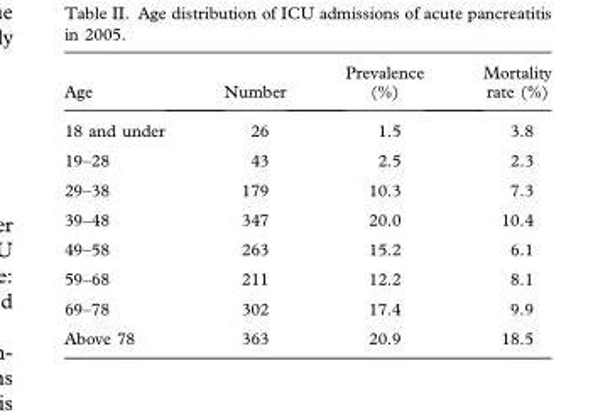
<table><thead><tr><td>Age</td><td>Number</td><td>Prevalence (%)</td><td>Mortality rate (%)</td></tr></thead><tbody><tr><td>18 and under</td><td>26</td><td>1.5</td><td>3.8</td></tr><tr><td>19–28</td><td>43</td><td>2.5</td><td>2.3</td></tr><tr><td>29–38</td><td>179</td><td>10.3</td><td>7.3</td></tr><tr><td>39–48</td><td>347</td><td>20.0</td><td>10.4</td></tr><tr><td>49–58</td><td>263</td><td>15.2</td><td>6.1</td></tr><tr><td>59–68</td><td>211</td><td>12.2</td><td>8.1</td></tr><tr><td>69–78</td><td>302</td><td>17.4</td><td>9.9</td></tr><tr><td>Above 78</td><td>363</td><td>20.9</td><td>18.5</td></tr></tbody></table>